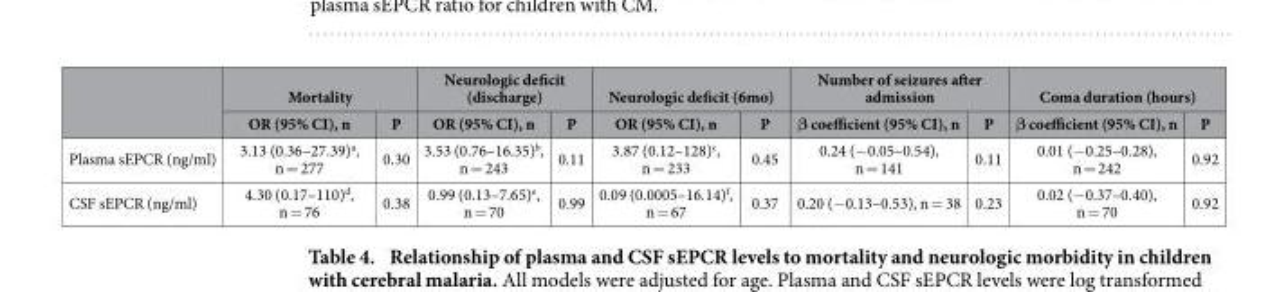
<table><thead><tr><td rowspan="2"></td><td colspan="2">Mortality</td><td colspan="2">Neurologic deficit (discharge)</td><td colspan="2">Neurologic deficit (6mo)</td><td colspan="2">Number of seizures after admission</td><td colspan="2">Coma duration (hours)</td></tr><tr><td>OR (95% CI), n</td><td>P</td><td>OR (95% CI), n</td><td>P</td><td>OR (95% CI), n</td><td>P</td><td>β coefficient (95% CI), n</td><td>P</td><td>β coefficient (95% CI), n</td><td>P</td></tr></thead><tbody><tr><td>Plasma sEPCR (ng/ml)</td><td>3.13 (0.36–27.39)<sup>a</sup>, n = 277</td><td>0.30</td><td>3.53 (0.76–16.35)<sup>b</sup>, n = 243</td><td>0.11</td><td>3.87 (0.12–128)<sup>c</sup>, n = 233</td><td>0.45</td><td>0.24 (− 0.05–0.54), n = 141</td><td>0.11</td><td>0.01 (− 0.25–0.28), n = 242</td><td>0.92</td></tr><tr><td>CSF sEPCR (ng/ml)</td><td>4.30 (0.17–110)<sup>d</sup>, n = 76</td><td>0.38</td><td>0.99 (0.13–7.65)<sup>e</sup>, n = 70</td><td>0.99</td><td>0.09 (0.0005–16.14)<sup>f</sup>, n = 67</td><td>0.37</td><td>0.20 (− 0.13–0.53), n = 38</td><td>0.23</td><td>0.02 (− 0.37–0.40), n = 70</td><td>0.92</td></tr></tbody></table>